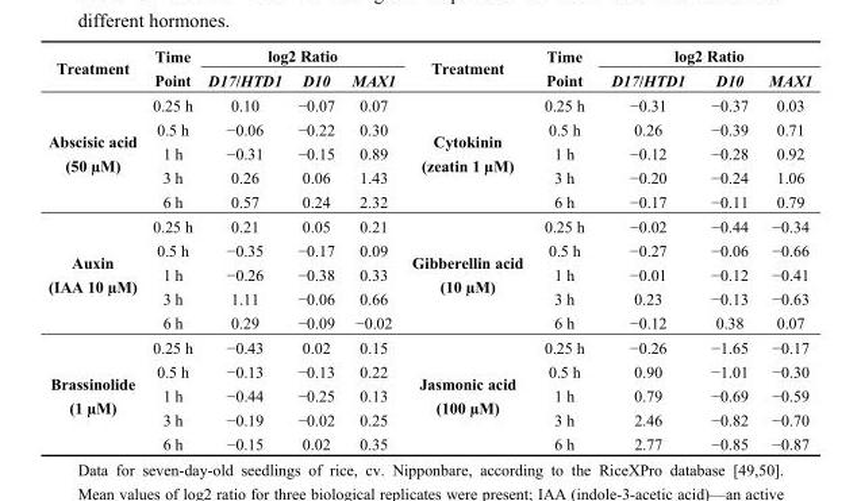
<table><thead><tr><td rowspan="2">Treatment</td><td rowspan="2">Time Point</td><td colspan="3">log2 Ratio</td><td rowspan="2">Treatment</td><td rowspan="2">Time Point</td><td colspan="3">log2 Ratio</td></tr><tr><td>D17/HTD1</td><td>D10</td><td>MAX1</td><td>D17/HTD1</td><td>D10</td><td>MAX1</td></tr></thead><tbody><tr><td rowspan="5">Abscisic acid (50 µM)</td><td>0.25 h</td><td>0.10</td><td>−0.07</td><td>0.07</td><td rowspan="5">Cytokinin (zeatin 1 µM)</td><td>0.25 h</td><td>−0.31</td><td>−0.37</td><td>0.03</td></tr><tr><td>0.5 h</td><td>−0.06</td><td>−0.22</td><td>0.30</td><td>0.5 h</td><td>0.26</td><td>−0.39</td><td>0.71</td></tr><tr><td>1 h</td><td>−0.31</td><td>−0.15</td><td>0.89</td><td>1 h</td><td>−0.12</td><td>−0.28</td><td>0.92</td></tr><tr><td>3 h</td><td>0.26</td><td>0.06</td><td>1.43</td><td>3 h</td><td>−0.20</td><td>−0.24</td><td>1.06</td></tr><tr><td>6 h</td><td>0.57</td><td>0.24</td><td>2.32</td><td>6 h</td><td>−0.17</td><td>−0.11</td><td>0.79</td></tr><tr><td rowspan="5">Auxin (IAA 10 µM)</td><td>0.25 h</td><td>0.21</td><td>0.05</td><td>0.21</td><td rowspan="5">Gibberellin acid (10 µM)</td><td>0.25 h</td><td>−0.02</td><td>−0.44</td><td>−0.34</td></tr><tr><td>0.5 h</td><td>−0.35</td><td>−0.17</td><td>0.09</td><td>0.5 h</td><td>−0.27</td><td>−0.06</td><td>−0.66</td></tr><tr><td>1 h</td><td>−0.26</td><td>−0.38</td><td>0.33</td><td>1 h</td><td>−0.01</td><td>−0.12</td><td>−0.41</td></tr><tr><td>3 h</td><td>1.11</td><td>−0.06</td><td>0.66</td><td>3 h</td><td>0.23</td><td>−0.13</td><td>−0.63</td></tr><tr><td>6 h</td><td>0.29</td><td>−0.09</td><td>−0.02</td><td>6 h</td><td>−0.12</td><td>0.38</td><td>0.07</td></tr><tr><td rowspan="5">Brassinolide (1 µM)</td><td>0.25 h</td><td>−0.43</td><td>0.02</td><td>0.15</td><td rowspan="5">Jasmonic acid (100 µM)</td><td>0.25 h</td><td>−0.26</td><td>−1.65</td><td>−0.17</td></tr><tr><td>0.5 h</td><td>−0.13</td><td>−0.13</td><td>0.22</td><td>0.5 h</td><td>0.90</td><td>−1.01</td><td>−0.30</td></tr><tr><td>1 h</td><td>−0.44</td><td>−0.25</td><td>0.13</td><td>1 h</td><td>0.79</td><td>−0.69</td><td>−0.59</td></tr><tr><td>3 h</td><td>−0.19</td><td>−0.02</td><td>0.25</td><td>3 h</td><td>2.46</td><td>−0.82</td><td>−0.70</td></tr><tr><td>6 h</td><td>−0.15</td><td>0.02</td><td>0.35</td><td>6 h</td><td>2.77</td><td>−0.85</td><td>−0.87</td></tr></tbody></table>